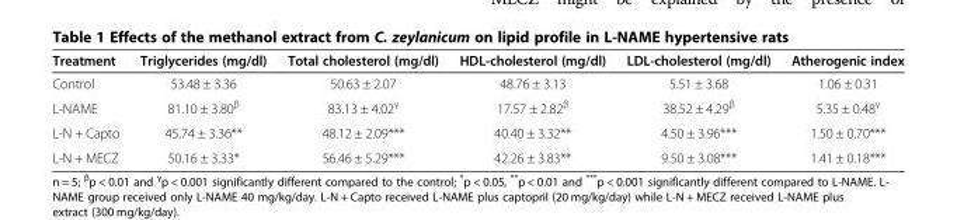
<table><thead><tr><td>Treatment</td><td>Triglycerides (mg/dl)</td><td>Total cholesterol (mg/dl)</td><td>HDL-cholesterol (mg/dl)</td><td>LDL-cholesterol (mg/dl)</td><td>Atherogenic index</td></tr></thead><tbody><tr><td>Control</td><td>53.48 ± 3.36</td><td>50.63 ± 2.07</td><td>48.76 ± 3.13</td><td>5.51 ± 3.68</td><td>1.06 ± 0.31</td></tr><tr><td>L-NAME</td><td>81.10 ± 3.80<sup>β</sup></td><td>83.13 ± 4.02<sup>γ</sup></td><td>17.57 ± 2.82<sup>β</sup></td><td>38.52 ± 4.29<sup>β</sup></td><td>5.35 ± 0.48<sup>γ</sup></td></tr><tr><td>L-N + Capto</td><td>45.74 ± 3.36**</td><td>48.12 ± 2.09***</td><td>40.40 ± 3.32**</td><td>4.50 ± 3.96***</td><td>1.50 ± 0.70***</td></tr><tr><td>L-N + MECZ</td><td>50.16 ± 3.33*</td><td>56.46 ± 5.29***</td><td>42.26 ± 3.83**</td><td>9.50 ± 3.08***</td><td>1.41 ± 0.18***</td></tr></tbody></table>